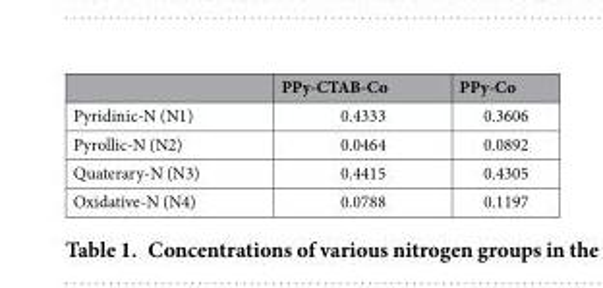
<table><thead><tr><td></td><td>PPy-CTAB-Co</td><td>PPy-Co</td></tr></thead><tbody><tr><td>Pyridinic-N (N1)</td><td>0.4333</td><td>0.3606</td></tr><tr><td>Pyrollic-N (N2)</td><td>0.0464</td><td>0.0892</td></tr><tr><td>Quaterary-N (N3)</td><td>0.4415</td><td>0.4305</td></tr><tr><td>Oxidative-N (N4)</td><td>0.0788</td><td>0.1197</td></tr></tbody></table>